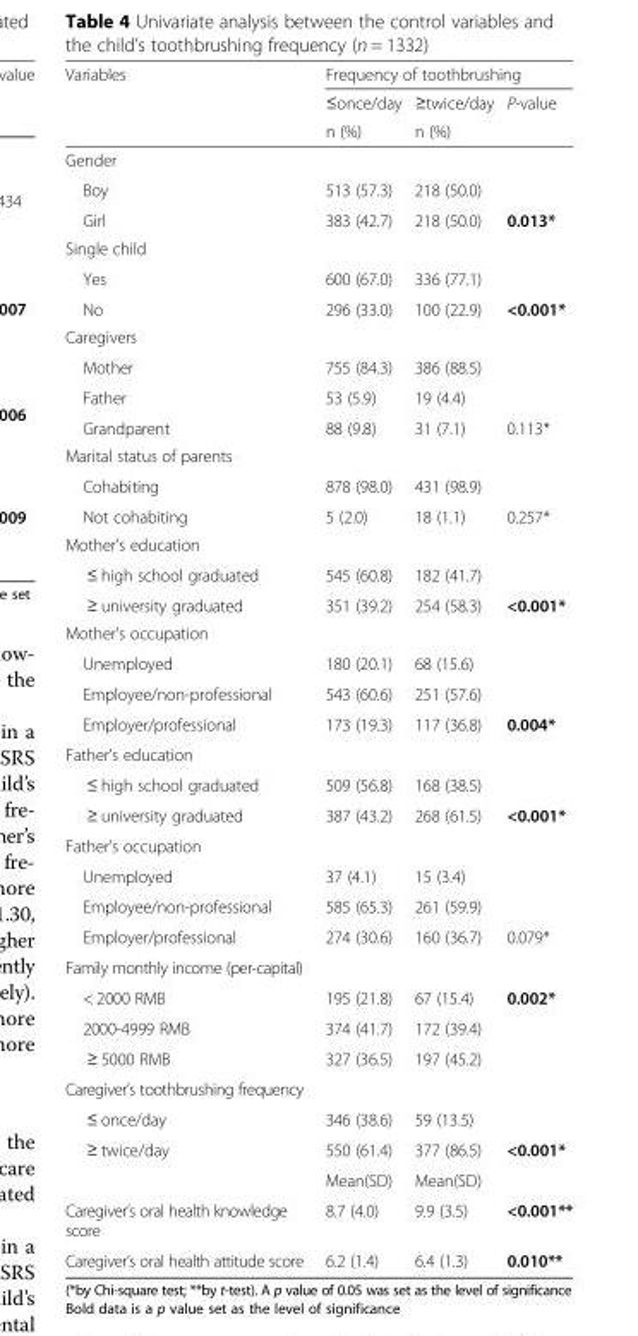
<table><thead><tr><td rowspan="3">Variables</td><td colspan="3">Frequency of toothbrushing</td></tr><tr><td rowspan="2">≤once/day n (%)</td><td rowspan="2">≥twice/day n (%)</td><td rowspan="2">P-value</td></tr><tr></tr></thead><tbody><tr><td colspan="4">Gender</td></tr><tr><td>Boy</td><td>513 (57.3)</td><td>218 (50.0)</td><td></td></tr><tr><td>Girl</td><td>383 (42.7)</td><td>218 (50.0)</td><td>0.013*</td></tr><tr><td colspan="4">Single child</td></tr><tr><td>Yes</td><td>600 (67.0)</td><td>336 (77.1)</td><td></td></tr><tr><td>No</td><td>296 (33.0)</td><td>100 (22.9)</td><td>&lt;0.001*</td></tr><tr><td colspan="4">Caregivers</td></tr><tr><td>Mother</td><td>755 (84.3)</td><td>386 (88.5)</td><td></td></tr><tr><td>Father</td><td>53 (5.9)</td><td>19 (4.4)</td><td></td></tr><tr><td>Grandparent</td><td>88 (9.8)</td><td>31 (7.1)</td><td>0.113*</td></tr><tr><td colspan="4">Marital status of parents</td></tr><tr><td>Cohabiting</td><td>878 (98.0)</td><td>431 (98.9)</td><td></td></tr><tr><td>Not cohabiting</td><td>5 (2.0)</td><td>18 (1.1)</td><td>0.257*</td></tr><tr><td colspan="4">Mother’s education</td></tr><tr><td>≤ high school graduated</td><td>545 (60.8)</td><td>182 (41.7)</td><td></td></tr><tr><td>≥ university graduated</td><td>351 (39.2)</td><td>254 (58.3)</td><td>&lt;0.001*</td></tr><tr><td colspan="4">Mother’s occupation</td></tr><tr><td>Unemployed</td><td>180 (20.1)</td><td>68 (15.6)</td><td></td></tr><tr><td>Employee/non-professional</td><td>543 (60.6)</td><td>251 (57.6)</td><td></td></tr><tr><td>Employer/professional</td><td>173 (19.3)</td><td>117 (36.8)</td><td>0.004*</td></tr><tr><td colspan="4">Father’s education</td></tr><tr><td>≤ high school graduated</td><td>509 (56.8)</td><td>168 (38.5)</td><td></td></tr><tr><td>≥ university graduated</td><td>387 (43.2)</td><td>268 (61.5)</td><td>&lt;0.001*</td></tr><tr><td colspan="4">Father’s occupation</td></tr><tr><td>Unemployed</td><td>37 (4.1)</td><td>15 (3.4)</td><td></td></tr><tr><td>Employee/non-professional</td><td>585 (65.3)</td><td>261 (59.9)</td><td></td></tr><tr><td>Employer/professional</td><td>274 (30.6)</td><td>160 (36.7)</td><td>0.079*</td></tr><tr><td colspan="4">Family monthly income (per-capital)</td></tr><tr><td>&lt; 2000 RMB</td><td>195 (21.8)</td><td>67 (15.4)</td><td>0.002*</td></tr><tr><td>2000-4999 RMB</td><td>374 (41.7)</td><td>172 (39.4)</td><td></td></tr><tr><td>≥ 5000 RMB</td><td>327 (36.5)</td><td>197 (45.2)</td><td></td></tr><tr><td colspan="4">Caregiver’s toothbrushing frequency</td></tr><tr><td>≤ once/day</td><td>346 (38.6)</td><td>59 (13.5)</td><td></td></tr><tr><td rowspan="2">≥ twice/day</td><td>550 (61.4)</td><td>377 (86.5)</td><td>&lt;0.001*</td></tr><tr><td>Mean(SD)</td><td>Mean(SD)</td><td></td></tr><tr><td>Caregiver’s oral health knowledge score</td><td>8.7 (4.0)</td><td>9.9 (3.5)</td><td>&lt;0.001**</td></tr><tr><td>Caregiver’s oral health attitude score</td><td>6.2 (1.4)</td><td>6.4 (1.3)</td><td>0.010**</td></tr></tbody></table>